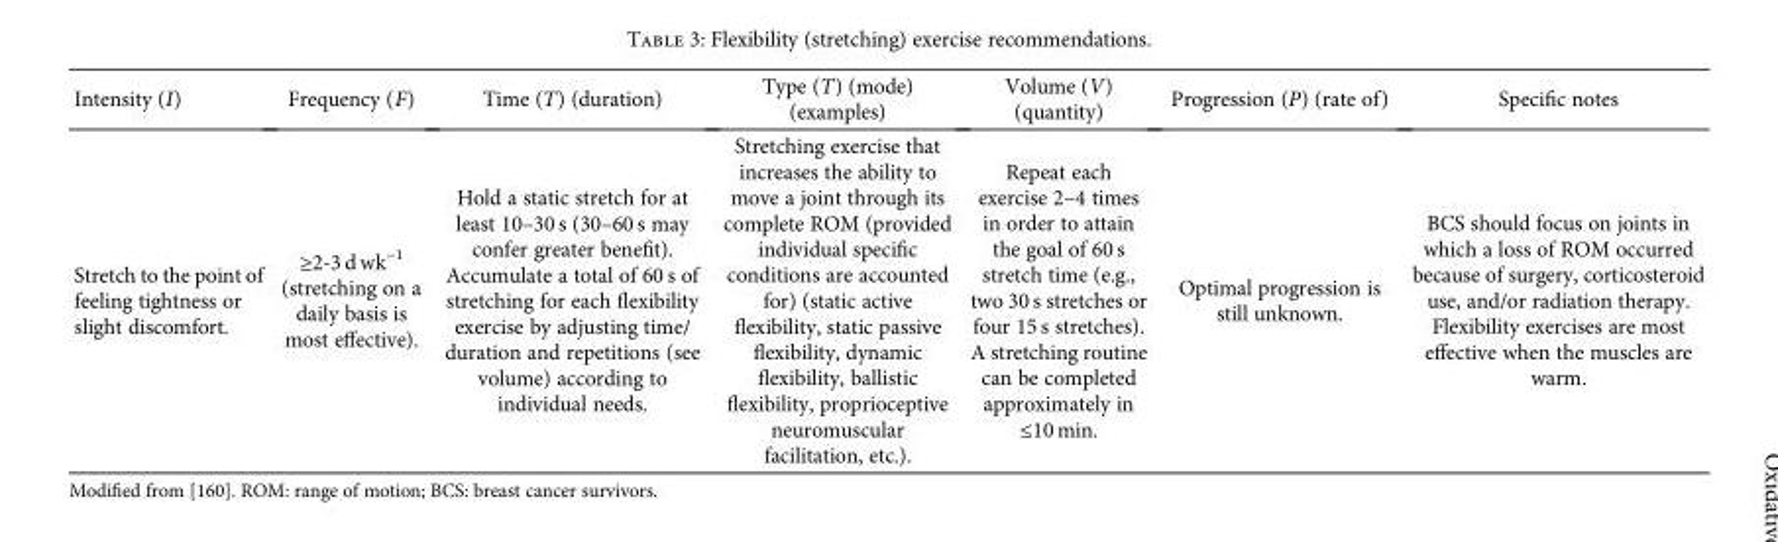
<table><thead><tr><td>Intensity (I)</td><td>Frequency (F)</td><td>Time (T) (duration)</td><td>Type (T) (mode) (examples)</td><td>Volume (V) (quantity)</td><td>Progression (P) (rate of)</td><td>Specific notes</td></tr></thead><tbody><tr><td>Stretch to the point of feeling tightness or slight discomfort.</td><td>≥2-3 d wk<sup>−1</sup> (stretching on a daily basis is most effective).</td><td>Hold a static stretch for at least 10–30 s (30–60 s may confer greater benefit). Accumulate a total of 60 s of stretching for each flexibility exercise by adjusting time/ duration and repetitions (see volume) according to individual needs.</td><td>Stretching exercise that increases the ability to move a joint through its complete ROM (provided individual specific conditions are accounted for) (static active flexibility, static passive flexibility, dynamic flexibility, ballistic flexibility, proprioceptive neuromuscular facilitation, etc.).</td><td>Repeat each exercise 2–4 times in order to attain the goal of 60 s stretch time (e.g., two 30 s stretches or four 15 s stretches). A stretching routine can be completed approximately in ≤10 min.</td><td>Optimal progression is still unknown.</td><td>BCS should focus on joints in which a loss of ROM occurred because of surgery, corticosteroid use, and/or radiation therapy. Flexibility exercises are most effective when the muscles are warm.</td></tr></tbody></table>